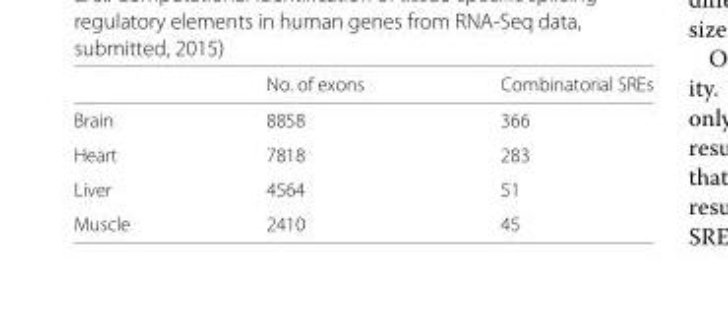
<table><thead><tr><td></td><td>No. of exons</td><td>Combinatorial SREs</td></tr></thead><tbody><tr><td>Brain</td><td>8858</td><td>366</td></tr><tr><td>Heart</td><td>7818</td><td>283</td></tr><tr><td>Liver</td><td>4564</td><td>51</td></tr><tr><td>Muscle</td><td>2410</td><td>45</td></tr></tbody></table>